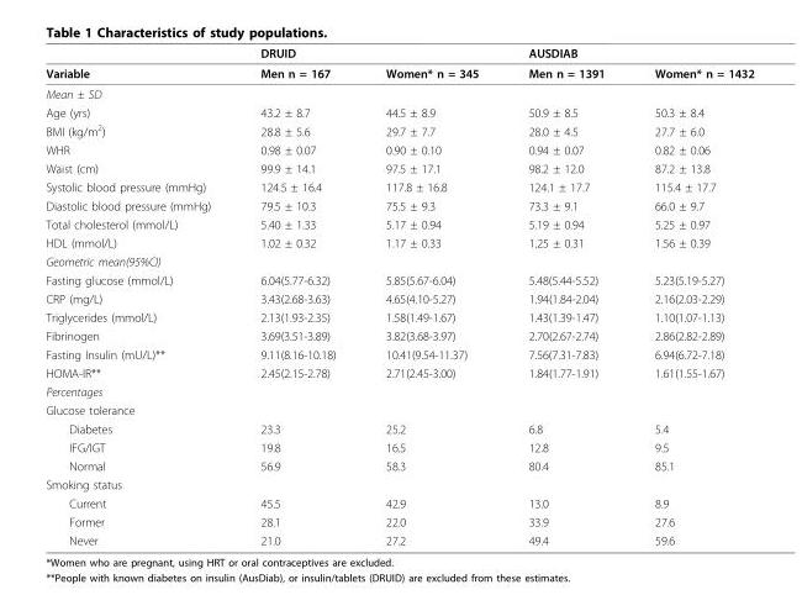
<table><thead><tr><td rowspan="2">Variable</td><td colspan="2">DRUID</td><td colspan="2">AUSDIAB</td></tr><tr><td>Men n = 167</td><td>Women* n = 345</td><td>Men n = 1391</td><td>Women* n = 1432</td></tr></thead><tbody><tr><td colspan="5">Mean ± SD</td></tr><tr><td>Age (yrs)</td><td>43.2 ± 8.7</td><td>44.5 ± 8.9</td><td>50.9 ± 8.5</td><td>50.3 ± 8.4</td></tr><tr><td>BMI (kg/m<sup>2</sup>)</td><td>28.8 ± 5.6</td><td>29.7 ± 7.7</td><td>28.0 ± 4.5</td><td>27.7 ± 6.0</td></tr><tr><td>WHR</td><td>0.98 ± 0.07</td><td>0.90 ± 0.10</td><td>0.94 ± 0.07</td><td>0.82 ± 0.06</td></tr><tr><td>Waist (cm)</td><td>99.9 ± 14.1</td><td>97.5 ± 17.1</td><td>98.2 ± 12.0</td><td>87.2 ± 13.8</td></tr><tr><td>Systolic blood pressure (mmHg)</td><td>124.5 ± 16.4</td><td>117.8 ± 16.8</td><td>124.1 ± 17.7</td><td>115.4 ± 17.7</td></tr><tr><td>Diastolic blood pressure (mmHg)</td><td>79.5 ± 10.3</td><td>75.5 ± 9.3</td><td>73.3 ± 9.1</td><td>66.0 ± 9.7</td></tr><tr><td>Total cholesterol (mmol/L)</td><td>5.40 ± 1.33</td><td>5.17 ± 0.94</td><td>5.19 ± 0.94</td><td>5.25 ± 0.97</td></tr><tr><td>HDL (mmol/L)</td><td>1.02 ± 0.32</td><td>1.17 ± 0.33</td><td>1.25 ± 0.31</td><td>1.56 ± 0.39</td></tr><tr><td colspan="5">Geometric mean(95%CI)</td></tr><tr><td>Fasting glucose (mmol/L)</td><td>6.04(5.77-6.32)</td><td>5.85(5.67-6.04)</td><td>5.48(5.44-5.52)</td><td>5.23(5.19-5.27)</td></tr><tr><td>CRP (mg/L)</td><td>3.43(2.68-3.63)</td><td>4.65(4.10-5.27)</td><td>1.94(1.84-2.04)</td><td>2.16(2.03-2.29)</td></tr><tr><td>Triglycerides (mmol/L)</td><td>2.13(1.93-2.35)</td><td>1.58(1.49-1.67)</td><td>1.43(1.39-1.47)</td><td>1.10(1.07-1.13)</td></tr><tr><td>Fibrinogen</td><td>3.69(3.51-3.89)</td><td>3.82(3.68-3.97)</td><td>2.70(2.67-2.74)</td><td>2.86(2.82-2.89)</td></tr><tr><td>Fasting Insulin (mU/L)**</td><td>9.11(8.16-10.18)</td><td>10.41(9.54-11.37)</td><td>7.56(7.31-7.83)</td><td>6.94(6.72-7.18)</td></tr><tr><td>HOMA-IR**</td><td>2.45(2.15-2.78)</td><td>2.71(2.45-3.00)</td><td>1.84(1.77-1.91)</td><td>1.61(1.55-1.67)</td></tr><tr><td colspan="5">Percentages</td></tr><tr><td colspan="5">Glucose tolerance</td></tr><tr><td>Diabetes</td><td>23.3</td><td>25.2</td><td>6.8</td><td>5.4</td></tr><tr><td>IFG/IGT</td><td>19.8</td><td>16.5</td><td>12.8</td><td>9.5</td></tr><tr><td>Normal</td><td>56.9</td><td>58.3</td><td>80.4</td><td>85.1</td></tr><tr><td colspan="5">Smoking status</td></tr><tr><td>Current</td><td>45.5</td><td>42.9</td><td>13.0</td><td>8.9</td></tr><tr><td>Former</td><td>28.1</td><td>22.0</td><td>33.9</td><td>27.6</td></tr><tr><td>Never</td><td>21.0</td><td>27.2</td><td>49.4</td><td>59.6</td></tr></tbody></table>